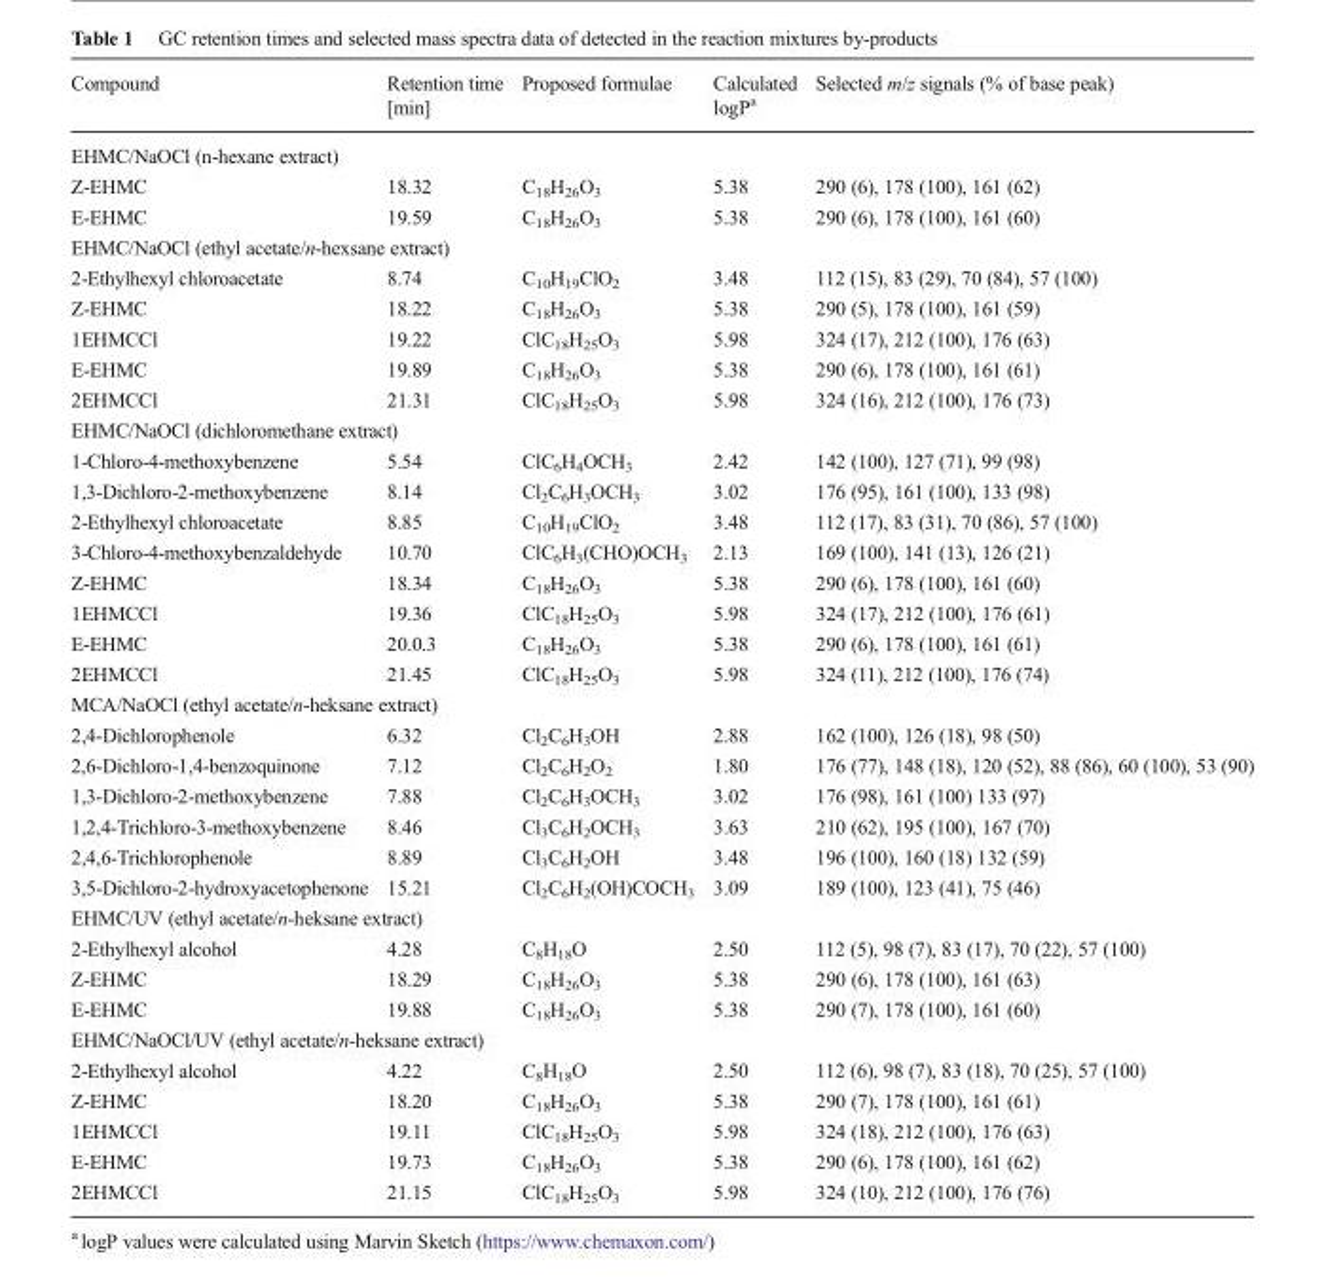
<table><thead><tr><td>Compound</td><td>Retention time [min]</td><td>Proposed formulae</td><td>Calculated logP<sup>a</sup></td><td>Selected m/z signals (% of base peak)</td></tr></thead><tbody><tr><td colspan="5">EHMC/NaOCl (n-hexane extract)</td></tr><tr><td>Z-EHMC</td><td>18.32</td><td>C<sub>18</sub>H<sub>26</sub>O<sub>3</sub></td><td>5.38</td><td>290 (6), 178 (100), 161 (62)</td></tr><tr><td>E-EHMC</td><td>19.59</td><td>C<sub>18</sub>H<sub>26</sub>O<sub>3</sub></td><td>5.38</td><td>290 (6), 178 (100), 161 (60)</td></tr><tr><td colspan="5">EHMC/NaOCl (ethyl acetate/n-hexsane extract)</td></tr><tr><td>2-Ethylhexyl chloroacetate</td><td>8.74</td><td>C<sub>10</sub>H<sub>19</sub>ClO<sub>2</sub></td><td>3.48</td><td>112 (15), 83 (29), 70 (84), 57 (100)</td></tr><tr><td>Z-EHMC</td><td>18.22</td><td>C<sub>18</sub>H<sub>26</sub>O<sub>3</sub></td><td>5.38</td><td>290 (5), 178 (100), 161 (59)</td></tr><tr><td>1EHMCCl</td><td>19.22</td><td>ClC<sub>18</sub>H<sub>25</sub>O<sub>3</sub></td><td>5.98</td><td>324 (17), 212 (100), 176 (63)</td></tr><tr><td>E-EHMC</td><td>19.89</td><td>C<sub>18</sub>H<sub>26</sub>O<sub>3</sub></td><td>5.38</td><td>290 (6), 178 (100), 161 (61)</td></tr><tr><td>2EHMCCl</td><td>21.31</td><td>ClC<sub>18</sub>H<sub>25</sub>O<sub>3</sub></td><td>5.98</td><td>324 (16), 212 (100), 176 (73)</td></tr><tr><td colspan="5">EHMC/NaOCl (dichloromethane extract)</td></tr><tr><td>1-Chloro-4-methoxybenzene</td><td>5.54</td><td>ClC<sub>6</sub>H<sub>4</sub>OCH<sub>3</sub></td><td>2.42</td><td>142 (100), 127 (71), 99 (98)</td></tr><tr><td>1,3-Dichloro-2-methoxybenzene</td><td>8.14</td><td>Cl<sub>2</sub>C<sub>6</sub>H<sub>3</sub>OCH<sub>3</sub></td><td>3.02</td><td>176 (95), 161 (100), 133 (98)</td></tr><tr><td>2-Ethylhexyl chloroacetate</td><td>8.85</td><td>C<sub>10</sub>H<sub>19</sub>ClO<sub>2</sub></td><td>3.48</td><td>112 (17), 83 (31), 70 (86), 57 (100)</td></tr><tr><td>3-Chloro-4-methoxybenzaldehyde</td><td>10.70</td><td>ClC<sub>6</sub>H<sub>3</sub>(CHO)OCH<sub>3</sub></td><td>2.13</td><td>169 (100), 141 (13), 126 (21)</td></tr><tr><td>Z-EHMC</td><td>18.34</td><td>C<sub>18</sub>H<sub>26</sub>O<sub>3</sub></td><td>5.38</td><td>290 (6), 178 (100), 161 (60)</td></tr><tr><td>1EHMCCl</td><td>19.36</td><td>ClC<sub>18</sub>H<sub>25</sub>O<sub>3</sub></td><td>5.98</td><td>324 (17), 212 (100), 176 (61)</td></tr><tr><td>E-EHMC</td><td>20.0.3</td><td>C<sub>18</sub>H<sub>26</sub>O<sub>3</sub></td><td>5.38</td><td>290 (6), 178 (100), 161 (61)</td></tr><tr><td>2EHMCCl</td><td>21.45</td><td>ClC<sub>18</sub>H<sub>25</sub>O<sub>3</sub></td><td>5.98</td><td>324 (11), 212 (100), 176 (74)</td></tr><tr><td colspan="5">MCA/NaOCl (ethyl acetate/n-heksane extract)</td></tr><tr><td>2,4-Dichlorophenole</td><td>6.32</td><td>Cl<sub>2</sub>C<sub>6</sub>H<sub>3</sub>OH</td><td>2.88</td><td>162 (100), 126 (18), 98 (50)</td></tr><tr><td>2,6-Dichloro-1,4-benzoquinone</td><td>7.12</td><td>Cl<sub>2</sub>C<sub>6</sub>H<sub>2</sub>O<sub>2</sub></td><td>1.80</td><td>176 (77), 148 (18), 120 (52), 88 (86), 60 (100), 53 (90)</td></tr><tr><td>1,3-Dichloro-2-methoxybenzene</td><td>7.88</td><td>Cl<sub>2</sub>C<sub>6</sub>H<sub>3</sub>OCH<sub>3</sub></td><td>3.02</td><td>176 (98), 161 (100) 133 (97)</td></tr><tr><td>1,2,4-Trichloro-3-methoxybenzene</td><td>8.46</td><td>Cl<sub>3</sub>C<sub>6</sub>H<sub>2</sub>OCH<sub>3</sub></td><td>3.63</td><td>210 (62), 195 (100), 167 (70)</td></tr><tr><td>2,4,6-Trichlorophenole</td><td>8.89</td><td>Cl<sub>3</sub>C<sub>6</sub>H<sub>2</sub>OH</td><td>3.48</td><td>196 (100), 160 (18) 132 (59)</td></tr><tr><td>3,5-Dichloro-2-hydroxyacetophenone</td><td>15.21</td><td>Cl<sub>2</sub>C<sub>6</sub>H<sub>2</sub>(OH)COCH<sub>3</sub></td><td>3.09</td><td>189 (100), 123 (41), 75 (46)</td></tr><tr><td colspan="5">EHMC/UV (ethyl acetate/n-heksane extract)</td></tr><tr><td>2-Ethylhexyl alcohol</td><td>4.28</td><td>C<sub>8</sub>H<sub>18</sub>O</td><td>2.50</td><td>112 (5), 98 (7), 83 (17), 70 (22), 57 (100)</td></tr><tr><td>Z-EHMC</td><td>18.29</td><td>C<sub>18</sub>H<sub>26</sub>O<sub>3</sub></td><td>5.38</td><td>290 (6), 178 (100), 161 (63)</td></tr><tr><td>E-EHMC</td><td>19.88</td><td>C<sub>18</sub>H<sub>26</sub>O<sub>3</sub></td><td>5.38</td><td>290 (7), 178 (100), 161 (60)</td></tr><tr><td colspan="5">EHMC/NaOCl/UV (ethyl acetate/n-heksane extract)</td></tr><tr><td>2-Ethylhexyl alcohol</td><td>4.22</td><td>C<sub>8</sub>H<sub>18</sub>O</td><td>2.50</td><td>112 (6), 98 (7), 83 (18), 70 (25), 57 (100)</td></tr><tr><td>Z-EHMC</td><td>18.20</td><td>C<sub>18</sub>H<sub>26</sub>O<sub>3</sub></td><td>5.38</td><td>290 (7), 178 (100), 161 (61)</td></tr><tr><td>1EHMCCl</td><td>19.11</td><td>ClC<sub>18</sub>H<sub>25</sub>O<sub>3</sub></td><td>5.98</td><td>324 (18), 212 (100), 176 (63)</td></tr><tr><td>E-EHMC</td><td>19.73</td><td>C<sub>18</sub>H<sub>26</sub>O<sub>3</sub></td><td>5.38</td><td>290 (6), 178 (100), 161 (62)</td></tr><tr><td>2EHMCCl</td><td>21.15</td><td>ClC<sub>18</sub>H<sub>25</sub>O<sub>3</sub></td><td>5.98</td><td>324 (10), 212 (100), 176 (76)</td></tr></tbody></table>